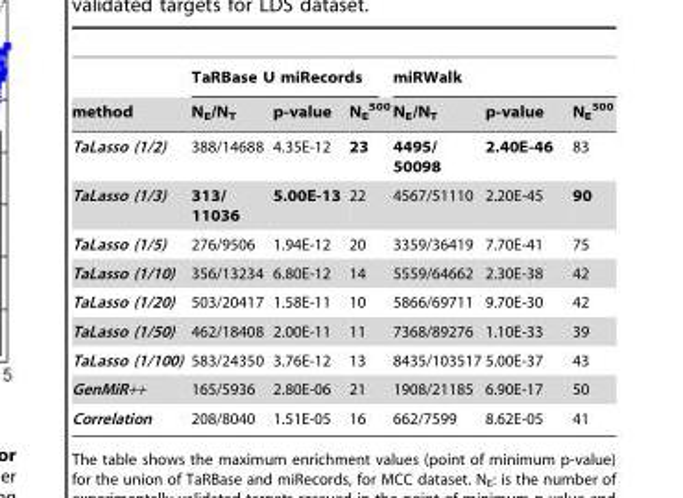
<table><thead><tr><td rowspan="2">method</td><td colspan="3">TaRBase U miRecords</td><td colspan="3">miRWalk</td></tr><tr><td>N<sub>E</sub>/N<sub>T</sub></td><td>p-value</td><td>N<sub>E</sub> <sup>500</sup></td><td>N<sub>E</sub>/N<sub>T</sub></td><td>p-value</td><td>N<sub>E</sub> <sup>500</sup></td></tr></thead><tbody><tr><td>TaLasso (1/2)</td><td>388/14688</td><td>4.35E-12</td><td>23</td><td>4495/ 50098</td><td>2.40E-46</td><td>83</td></tr><tr><td>TaLasso (1/3)</td><td>313/ 11036</td><td>5.00E-13</td><td>22</td><td>4567/51110</td><td>2.20E-45</td><td>90</td></tr><tr><td>TaLasso (1/5)</td><td>276/9506</td><td>1.94E-12</td><td>20</td><td>3359/36419</td><td>7.70E-41</td><td>75</td></tr><tr><td>TaLasso (1/10)</td><td>356/13234</td><td>6.80E-12</td><td>14</td><td>5559/64662</td><td>2.30E-38</td><td>42</td></tr><tr><td>TaLasso (1/20)</td><td>503/20417</td><td>1.58E-11</td><td>10</td><td>5866/69711</td><td>9.70E-30</td><td>42</td></tr><tr><td>TaLasso (1/50)</td><td>462/18408</td><td>2.00E-11</td><td>11</td><td>7368/89276</td><td>1.10E-33</td><td>39</td></tr><tr><td>TaLasso (1/100)</td><td>583/24350</td><td>3.76E-12</td><td>13</td><td>8435/103517</td><td>5.00E-37</td><td>43</td></tr><tr><td>GenMiR++</td><td>165/5936</td><td>2.80E-06</td><td>21</td><td>1908/21185</td><td>6.90E-17</td><td>50</td></tr><tr><td>Correlation</td><td>208/8040</td><td>1.51E-05</td><td>16</td><td>662/7599</td><td>8.62E-05</td><td>41</td></tr></tbody></table>